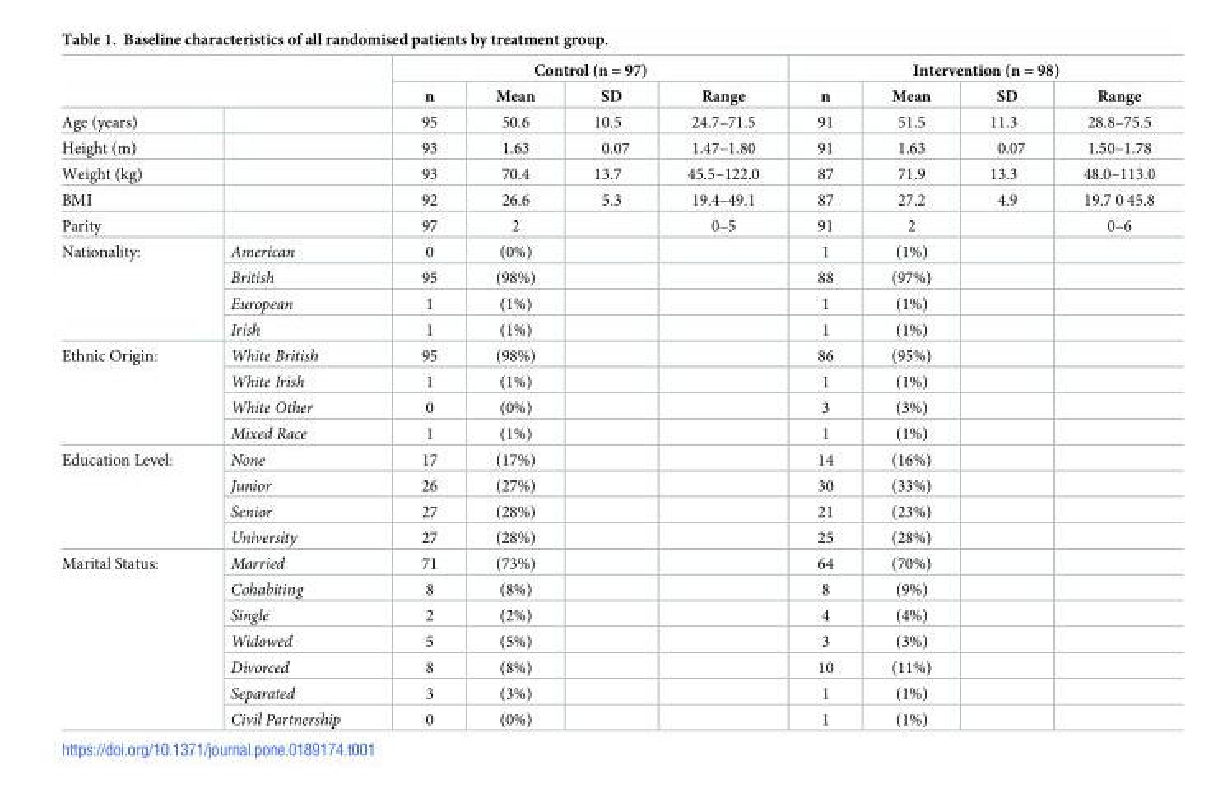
<table><thead><tr><td rowspan="2"></td><td rowspan="2"></td><td colspan="4">Control (n = 97)</td><td colspan="4">Intervention (n = 98)</td></tr><tr><td>n</td><td>Mean</td><td>SD</td><td>Range</td><td>n</td><td>Mean</td><td>SD</td><td>Range</td></tr></thead><tbody><tr><td>Age (years)</td><td></td><td>95</td><td>50.6</td><td>10.5</td><td>24.7–71.5</td><td>91</td><td>51.5</td><td>11.3</td><td>28.8–75.5</td></tr><tr><td>Height (m)</td><td></td><td>93</td><td>1.63</td><td>0.07</td><td>1.47–1.80</td><td>91</td><td>1.63</td><td>0.07</td><td>1.50–1.78</td></tr><tr><td>Weight (kg)</td><td></td><td>93</td><td>70.4</td><td>13.7</td><td>45.5–122.0</td><td>87</td><td>71.9</td><td>13.3</td><td>48.0–113.0</td></tr><tr><td>BMI</td><td></td><td>92</td><td>26.6</td><td>5.3</td><td>19.4–49.1</td><td>87</td><td>27.2</td><td>4.9</td><td>19.7 0 45.8</td></tr><tr><td>Parity</td><td></td><td>97</td><td>2</td><td></td><td>0–5</td><td>91</td><td>2</td><td></td><td>0–6</td></tr><tr><td rowspan="4">Nationality:</td><td>American</td><td>0</td><td>(0%)</td><td></td><td></td><td>1</td><td>(1%)</td><td></td><td></td></tr><tr><td>British</td><td>95</td><td>(98%)</td><td></td><td></td><td>88</td><td>(97%)</td><td></td><td></td></tr><tr><td>European</td><td>1</td><td>(1%)</td><td></td><td></td><td>1</td><td>(1%)</td><td></td><td></td></tr><tr><td>Irish</td><td>1</td><td>(1%)</td><td></td><td></td><td>1</td><td>(1%)</td><td></td><td></td></tr><tr><td rowspan="4">Ethnic Origin:</td><td>White British</td><td>95</td><td>(98%)</td><td></td><td></td><td>86</td><td>(95%)</td><td></td><td></td></tr><tr><td>White Irish</td><td>1</td><td>(1%)</td><td></td><td></td><td>1</td><td>(1%)</td><td></td><td></td></tr><tr><td>White Other</td><td>0</td><td>(0%)</td><td></td><td></td><td>3</td><td>(3%)</td><td></td><td></td></tr><tr><td>Mixed Race</td><td>1</td><td>(1%)</td><td></td><td></td><td>1</td><td>(1%)</td><td></td><td></td></tr><tr><td rowspan="4">Education Level:</td><td>None</td><td>17</td><td>(17%)</td><td></td><td></td><td>14</td><td>(16%)</td><td></td><td></td></tr><tr><td>Junior</td><td>26</td><td>(27%)</td><td></td><td></td><td>30</td><td>(33%)</td><td></td><td></td></tr><tr><td>Senior</td><td>27</td><td>(28%)</td><td></td><td></td><td>21</td><td>(23%)</td><td></td><td></td></tr><tr><td>University</td><td>27</td><td>(28%)</td><td></td><td></td><td>25</td><td>(28%)</td><td></td><td></td></tr><tr><td rowspan="7">Marital Status:</td><td>Married</td><td>71</td><td>(73%)</td><td></td><td></td><td>64</td><td>(70%)</td><td></td><td></td></tr><tr><td>Cohabiting</td><td>8</td><td>(8%)</td><td></td><td></td><td>8</td><td>(9%)</td><td></td><td></td></tr><tr><td>Single</td><td>2</td><td>(2%)</td><td></td><td></td><td>4</td><td>(4%)</td><td></td><td></td></tr><tr><td>Widowed</td><td>5</td><td>(5%)</td><td></td><td></td><td>3</td><td>(3%)</td><td></td><td></td></tr><tr><td>Divorced</td><td>8</td><td>(8%)</td><td></td><td></td><td>10</td><td>(11%)</td><td></td><td></td></tr><tr><td>Separated</td><td>3</td><td>(3%)</td><td></td><td></td><td>1</td><td>(1%)</td><td></td><td></td></tr><tr><td>Civil Partnership</td><td>0</td><td>(0%)</td><td></td><td></td><td>1</td><td>(1%)</td><td></td><td></td></tr></tbody></table>